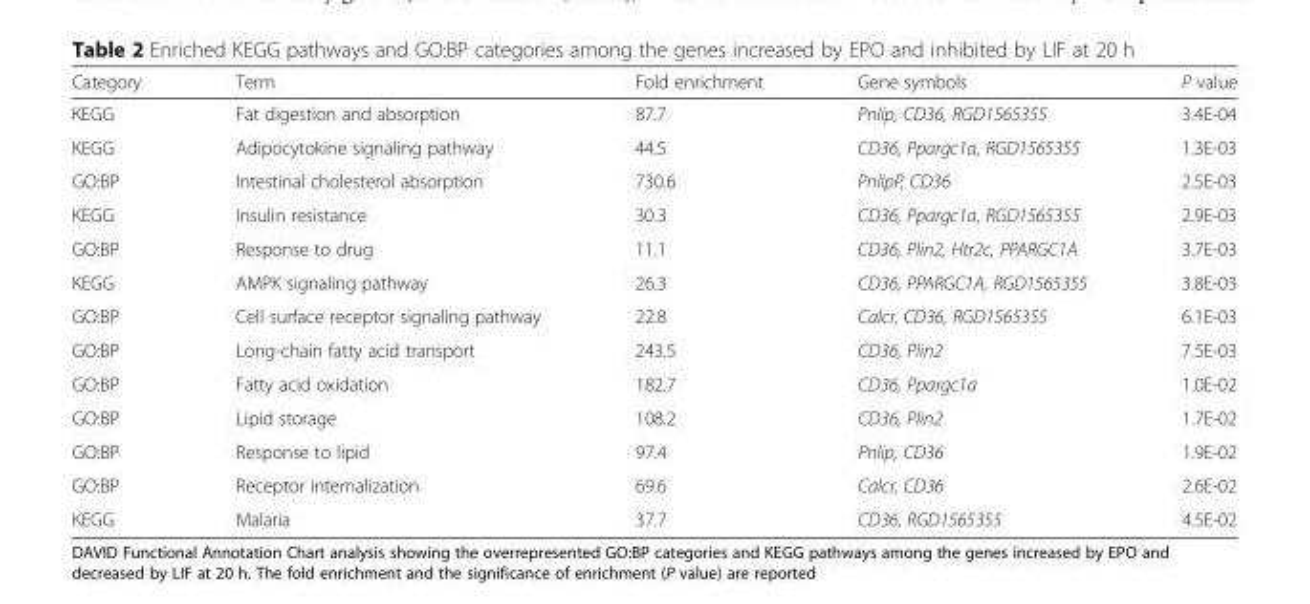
<table><thead><tr><td>Category</td><td>Term</td><td>Fold enrichment</td><td>Gene symbols</td><td>P value</td></tr></thead><tbody><tr><td>KEGG</td><td>Fat digestion and absorption</td><td>87.7</td><td>Pnlip, CD36, RGD1565355</td><td>3.4E-04</td></tr><tr><td>KEGG</td><td>Adipocytokine signaling pathway</td><td>44.5</td><td>CD36, Ppargc1a, RGD1565355</td><td>1.3E-03</td></tr><tr><td>GO:BP</td><td>Intestinal cholesterol absorption</td><td>730.6</td><td>PnlipP, CD36</td><td>2.5E-03</td></tr><tr><td>KEGG</td><td>Insulin resistance</td><td>30.3</td><td>CD36, Ppargc1a, RGD1565355</td><td>2.9E-03</td></tr><tr><td>GO:BP</td><td>Response to drug</td><td>11.1</td><td>CD36, Plin2, Htr2c, PPARGC1A</td><td>3.7E-03</td></tr><tr><td>KEGG</td><td>AMPK signaling pathway</td><td>26.3</td><td>CD36, PPARGC1A, RGD1565355</td><td>3.8E-03</td></tr><tr><td>GO:BP</td><td>Cell surface receptor signaling pathway</td><td>22.8</td><td>Calcr, CD36, RGD1565355</td><td>6.1E-03</td></tr><tr><td>GO:BP</td><td>Long-chain fatty acid transport</td><td>243.5</td><td>CD36, Plin2</td><td>7.5E-03</td></tr><tr><td>GO:BP</td><td>Fatty acid oxidation</td><td>182.7</td><td>CD36, Ppargc1a</td><td>1.0E-02</td></tr><tr><td>GO:BP</td><td>Lipid storage</td><td>108.2</td><td>CD36, Plin2</td><td>1.7E-02</td></tr><tr><td>GO:BP</td><td>Response to lipid</td><td>97.4</td><td>Pnlip, CD36</td><td>1.9E-02</td></tr><tr><td>GO:BP</td><td>Receptor internalization</td><td>69.6</td><td>Calcr, CD36</td><td>2.6E-02</td></tr><tr><td>KEGG</td><td>Malaria</td><td>37.7</td><td>CD36, RGD1565355</td><td>4.5E-02</td></tr></tbody></table>